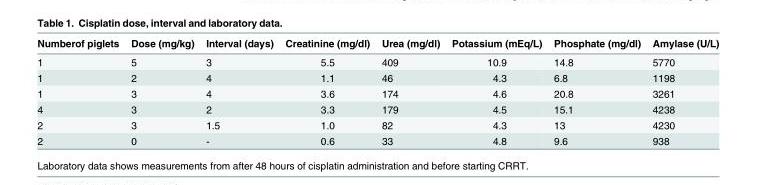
<table><thead><tr><td>Numberof piglets</td><td>Dose (mg/kg)</td><td>Interval (days)</td><td>Creatinine (mg/dl)</td><td>Urea (mg/dl)</td><td>Potassium (mEq/L)</td><td>Phosphate (mg/dl)</td><td>Amylase (U/L)</td></tr></thead><tbody><tr><td>1</td><td>5</td><td>3</td><td>5.5</td><td>409</td><td>10.9</td><td>14.8</td><td>5770</td></tr><tr><td>1</td><td>2</td><td>4</td><td>1.1</td><td>46</td><td>4.3</td><td>6.8</td><td>1198</td></tr><tr><td>1</td><td>3</td><td>4</td><td>3.6</td><td>174</td><td>4.6</td><td>20.8</td><td>3261</td></tr><tr><td>4</td><td>3</td><td>2</td><td>3.3</td><td>179</td><td>4.5</td><td>15.1</td><td>4238</td></tr><tr><td>2</td><td>3</td><td>1.5</td><td>1.0</td><td>82</td><td>4.3</td><td>13</td><td>4230</td></tr><tr><td>2</td><td>0</td><td>-</td><td>0.6</td><td>33</td><td>4.8</td><td>9.6</td><td>938</td></tr></tbody></table>